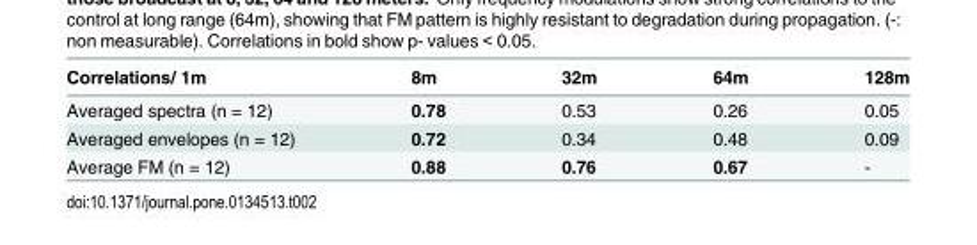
<table><thead><tr><td>Correlations/ 1m</td><td>8m</td><td>32m</td><td>64m</td><td>128m</td></tr></thead><tbody><tr><td>Averaged spectra (n = 12)</td><td>0.78</td><td>0.53</td><td>0.26</td><td>0.05</td></tr><tr><td>Averaged envelopes (n = 12)</td><td>0.72</td><td>0.34</td><td>0.48</td><td>0.09</td></tr><tr><td>Average FM (n = 12)</td><td>0.88</td><td>0.76</td><td>0.67</td><td>-</td></tr></tbody></table>